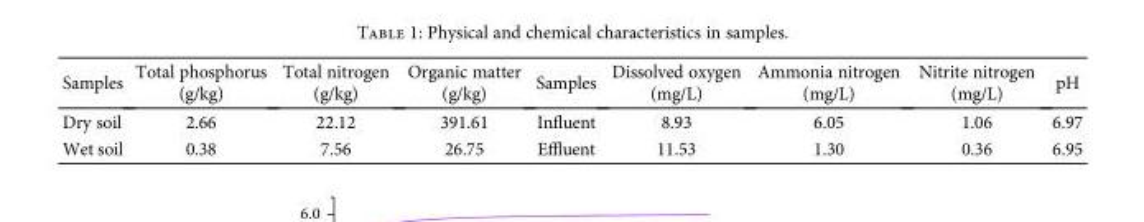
<table><thead><tr><td>Samples</td><td>Total phosphorus (g/kg)</td><td>Total nitrogen (g/kg)</td><td>Organic matter (g/kg)</td><td>Samples</td><td>Dissolved oxygen (mg/L)</td><td>Ammonia nitrogen (mg/L)</td><td>Nitrite nitrogen (mg/L)</td><td>pH</td></tr></thead><tbody><tr><td>Dry soil</td><td>2.66</td><td>22.12</td><td>391.61</td><td>Influent</td><td>8.93</td><td>6.05</td><td>1.06</td><td>6.97</td></tr><tr><td>Wet soil</td><td>0.38</td><td>7.56</td><td>26.75</td><td>Effluent</td><td>11.53</td><td>1.30</td><td>0.36</td><td>6.95</td></tr></tbody></table>